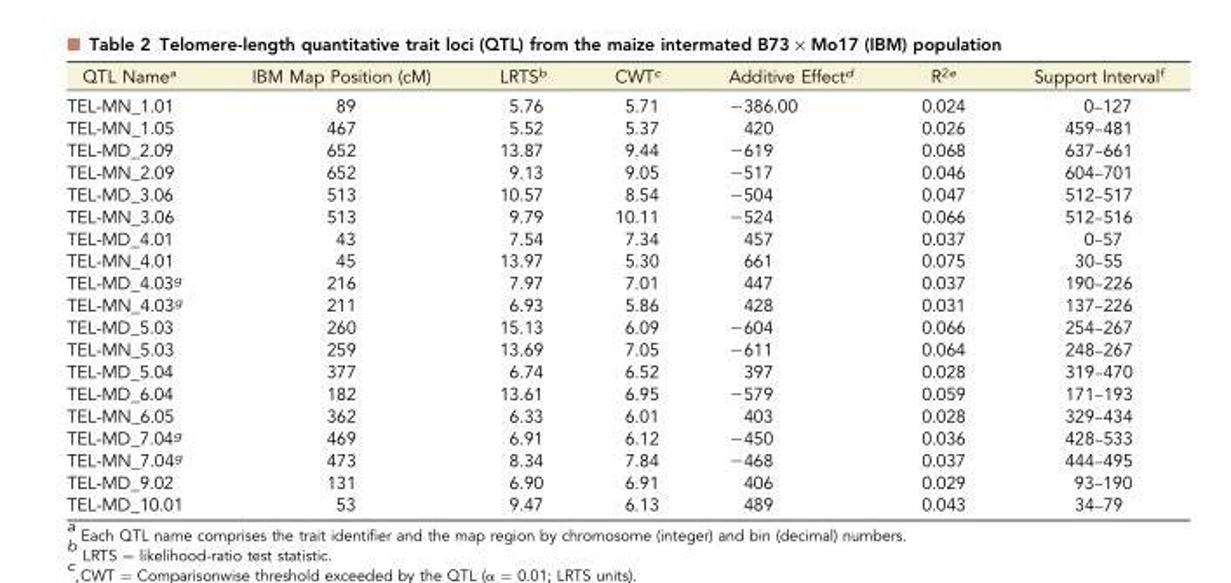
<table><thead><tr><td>QTL Name<sup>a</sup></td><td>IBM Map Position (cM)</td><td>LRTS<sup>b</sup></td><td>CWT<sup>c</sup></td><td>Additive Effect<sup>d</sup></td><td>R<sup>2e</sup></td><td>Support Interval<sup>f</sup></td></tr></thead><tbody><tr><td>TEL-MN_1.01</td><td>89</td><td>5.76</td><td>5.71</td><td>−386.00</td><td>0.024</td><td>0–127</td></tr><tr><td>TEL-MN_1.05</td><td>467</td><td>5.52</td><td>5.37</td><td>420</td><td>0.026</td><td>459–481</td></tr><tr><td>TEL-MD_2.09</td><td>652</td><td>13.87</td><td>9.44</td><td>−619</td><td>0.068</td><td>637–661</td></tr><tr><td>TEL-MN_2.09</td><td>652</td><td>9.13</td><td>9.05</td><td>−517</td><td>0.046</td><td>604–701</td></tr><tr><td>TEL-MD_3.06</td><td>513</td><td>10.57</td><td>8.54</td><td>−504</td><td>0.047</td><td>512–517</td></tr><tr><td>TEL-MN_3.06</td><td>513</td><td>9.79</td><td>10.11</td><td>−524</td><td>0.066</td><td>512–516</td></tr><tr><td>TEL-MD_4.01</td><td>43</td><td>7.54</td><td>7.34</td><td>457</td><td>0.037</td><td>0–57</td></tr><tr><td>TEL-MN_4.01</td><td>45</td><td>13.97</td><td>5.30</td><td>661</td><td>0.075</td><td>30–55</td></tr><tr><td>TEL-MD_4.03<sup>g</sup></td><td>216</td><td>7.97</td><td>7.01</td><td>447</td><td>0.037</td><td>190–226</td></tr><tr><td>TEL-MN_4.03<sup>g</sup></td><td>211</td><td>6.93</td><td>5.86</td><td>428</td><td>0.031</td><td>137–226</td></tr><tr><td>TEL-MD_5.03</td><td>260</td><td>15.13</td><td>6.09</td><td>−604</td><td>0.066</td><td>254–267</td></tr><tr><td>TEL-MN_5.03</td><td>259</td><td>13.69</td><td>7.05</td><td>−611</td><td>0.064</td><td>248–267</td></tr><tr><td>TEL-MD_5.04</td><td>377</td><td>6.74</td><td>6.52</td><td>397</td><td>0.028</td><td>319–470</td></tr><tr><td>TEL-MD_6.04</td><td>182</td><td>13.61</td><td>6.95</td><td>−579</td><td>0.059</td><td>171–193</td></tr><tr><td>TEL-MN_6.05</td><td>362</td><td>6.33</td><td>6.01</td><td>403</td><td>0.028</td><td>329–434</td></tr><tr><td>TEL-MD_7.04<sup>g</sup></td><td>469</td><td>6.91</td><td>6.12</td><td>−450</td><td>0.036</td><td>428–533</td></tr><tr><td>TEL-MN_7.04<sup>g</sup></td><td>473</td><td>8.34</td><td>7.84</td><td>−468</td><td>0.037</td><td>444–495</td></tr><tr><td>TEL-MD_9.02</td><td>131</td><td>6.90</td><td>6.91</td><td>406</td><td>0.029</td><td>93–190</td></tr><tr><td>TEL-MD_10.01</td><td>53</td><td>9.47</td><td>6.13</td><td>489</td><td>0.043</td><td>34–79</td></tr></tbody></table>